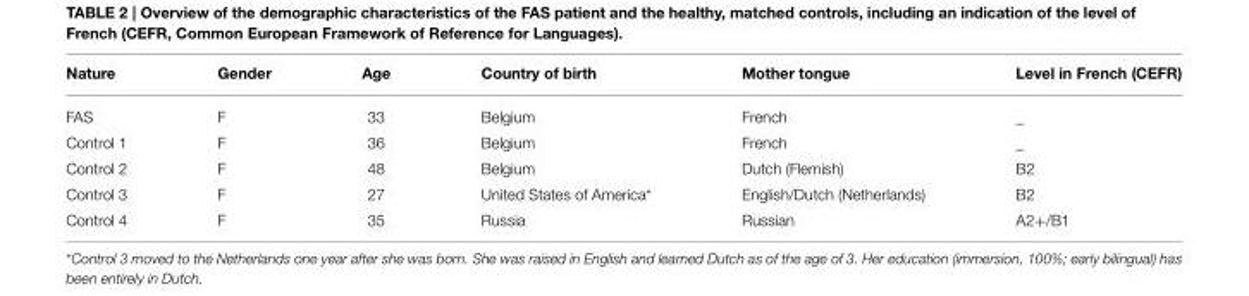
<table><thead><tr><td>Nature</td><td>Gender</td><td>Age</td><td>Country of birth</td><td>Mother tongue</td><td>Level in French (CEFR)</td></tr></thead><tbody><tr><td>FAS</td><td>F</td><td>33</td><td>Belgium</td><td>French</td><td>_</td></tr><tr><td>Control 1</td><td>F</td><td>36</td><td>Belgium</td><td>French</td><td>_</td></tr><tr><td>Control 2</td><td>F</td><td>48</td><td>Belgium</td><td>Dutch (Flemish)</td><td>B2</td></tr><tr><td>Control 3</td><td>F</td><td>27</td><td>United States of America*</td><td>English/Dutch (Netherlands)</td><td>B2</td></tr><tr><td>Control 4</td><td>F</td><td>35</td><td>Russia</td><td>Russian</td><td>A2+/B1</td></tr></tbody></table>